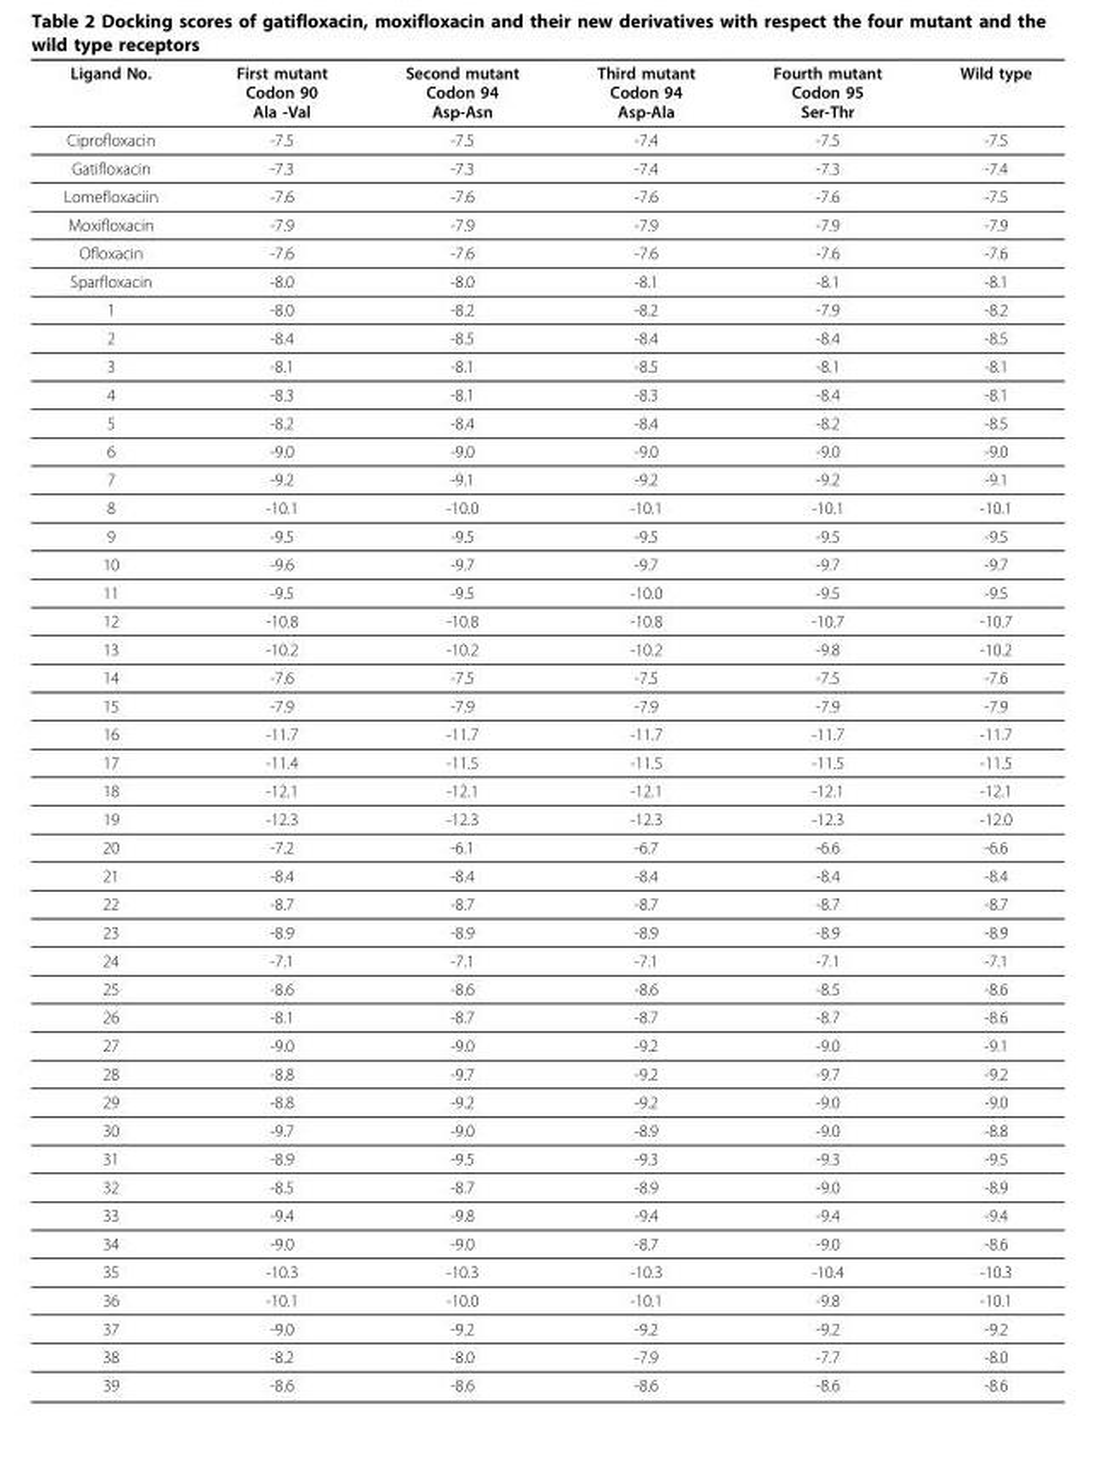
<table><thead><tr><td>Ligand No.</td><td>First mutant Codon 90 Ala -Val</td><td>Second mutant Codon 94 Asp-Asn</td><td>Third mutant Codon 94 Asp-Ala</td><td>Fourth mutant Codon 95 Ser-Thr</td><td>Wild type</td></tr></thead><tbody><tr><td>Ciprofloxacin</td><td>-7.5</td><td>-7.5</td><td>-7.4</td><td>-7.5</td><td>-7.5</td></tr><tr><td>Gatifloxacin</td><td>-7.3</td><td>-7.3</td><td>-7.4</td><td>-7.3</td><td>-7.4</td></tr><tr><td>Lomefloxaciin</td><td>-7.6</td><td>-7.6</td><td>-7.6</td><td>-7.6</td><td>-7.5</td></tr><tr><td>Moxifloxacin</td><td>-7.9</td><td>-7.9</td><td>-7.9</td><td>-7.9</td><td>-7.9</td></tr><tr><td>Ofloxacin</td><td>-7.6</td><td>-7.6</td><td>-7.6</td><td>-7.6</td><td>-7.6</td></tr><tr><td>Sparfloxacin</td><td>-8.0</td><td>-8.0</td><td>-8.1</td><td>-8.1</td><td>-8.1</td></tr><tr><td>1</td><td>-8.0</td><td>-8.2</td><td>-8.2</td><td>-7.9</td><td>-8.2</td></tr><tr><td>2</td><td>-8.4</td><td>-8.5</td><td>-8.4</td><td>-8.4</td><td>-8.5</td></tr><tr><td>3</td><td>-8.1</td><td>-8.1</td><td>-8.5</td><td>-8.1</td><td>-8.1</td></tr><tr><td>4</td><td>-8.3</td><td>-8.1</td><td>-8.3</td><td>-8.4</td><td>-8.1</td></tr><tr><td>5</td><td>-8.2</td><td>-8.4</td><td>-8.4</td><td>-8.2</td><td>-8.5</td></tr><tr><td>6</td><td>-9.0</td><td>-9.0</td><td>-9.0</td><td>-9.0</td><td>-9.0</td></tr><tr><td>7</td><td>-9.2</td><td>-9.1</td><td>-9.2</td><td>-9.2</td><td>-9.1</td></tr><tr><td>8</td><td>-10.1</td><td>-10.0</td><td>-10.1</td><td>-10.1</td><td>-10.1</td></tr><tr><td>9</td><td>-9.5</td><td>-9.5</td><td>-9.5</td><td>-9.5</td><td>-9.5</td></tr><tr><td>10</td><td>-9.6</td><td>-9.7</td><td>-9.7</td><td>-9.7</td><td>-9.7</td></tr><tr><td>11</td><td>-9.5</td><td>-9.5</td><td>-10.0</td><td>-9.5</td><td>-9.5</td></tr><tr><td>12</td><td>-10.8</td><td>-10.8</td><td>-10.8</td><td>-10.7</td><td>-10.7</td></tr><tr><td>13</td><td>-10.2</td><td>-10.2</td><td>-10.2</td><td>-9.8</td><td>-10.2</td></tr><tr><td>14</td><td>-7.6</td><td>-7.5</td><td>-7.5</td><td>-7.5</td><td>-7.6</td></tr><tr><td>15</td><td>-7.9</td><td>-7.9</td><td>-7.9</td><td>-7.9</td><td>-7.9</td></tr><tr><td>16</td><td>-11.7</td><td>-11.7</td><td>-11.7</td><td>-11.7</td><td>-11.7</td></tr><tr><td>17</td><td>-11.4</td><td>-11.5</td><td>-11.5</td><td>-11.5</td><td>-11.5</td></tr><tr><td>18</td><td>-12.1</td><td>-12.1</td><td>-12.1</td><td>-12.1</td><td>-12.1</td></tr><tr><td>19</td><td>-12.3</td><td>-12.3</td><td>-12.3</td><td>-12.3</td><td>-12.0</td></tr><tr><td>20</td><td>-7.2</td><td>-6.1</td><td>-6.7</td><td>-6.6</td><td>-6.6</td></tr><tr><td>21</td><td>-8.4</td><td>-8.4</td><td>-8.4</td><td>-8.4</td><td>-8.4</td></tr><tr><td>22</td><td>-8.7</td><td>-8.7</td><td>-8.7</td><td>-8.7</td><td>-8.7</td></tr><tr><td>23</td><td>-8.9</td><td>-8.9</td><td>-8.9</td><td>-8.9</td><td>-8.9</td></tr><tr><td>24</td><td>-7.1</td><td>-7.1</td><td>-7.1</td><td>-7.1</td><td>-7.1</td></tr><tr><td>25</td><td>-8.6</td><td>-8.6</td><td>-8.6</td><td>-8.5</td><td>-8.6</td></tr><tr><td>26</td><td>-8.1</td><td>-8.7</td><td>-8.7</td><td>-8.7</td><td>-8.6</td></tr><tr><td>27</td><td>-9.0</td><td>-9.0</td><td>-9.2</td><td>-9.0</td><td>-9.1</td></tr><tr><td>28</td><td>-8.8</td><td>-9.7</td><td>-9.2</td><td>-9.7</td><td>-9.2</td></tr><tr><td>29</td><td>-8.8</td><td>-9.2</td><td>-9.2</td><td>-9.0</td><td>-9.0</td></tr><tr><td>30</td><td>-9.7</td><td>-9.0</td><td>-8.9</td><td>-9.0</td><td>-8.8</td></tr><tr><td>31</td><td>-8.9</td><td>-9.5</td><td>-9.3</td><td>-9.3</td><td>-9.5</td></tr><tr><td>32</td><td>-8.5</td><td>-8.7</td><td>-8.9</td><td>-9.0</td><td>-8.9</td></tr><tr><td>33</td><td>-9.4</td><td>-9.8</td><td>-9.4</td><td>-9.4</td><td>-9.4</td></tr><tr><td>34</td><td>-9.0</td><td>-9.0</td><td>-8.7</td><td>-9.0</td><td>-8.6</td></tr><tr><td>35</td><td>-10.3</td><td>-10.3</td><td>-10.3</td><td>-10.4</td><td>-10.3</td></tr><tr><td>36</td><td>-10.1</td><td>-10.0</td><td>-10.1</td><td>-9.8</td><td>-10.1</td></tr><tr><td>37</td><td>-9.0</td><td>-9.2</td><td>-9.2</td><td>-9.2</td><td>-9.2</td></tr><tr><td>38</td><td>-8.2</td><td>-8.0</td><td>-7.9</td><td>-7.7</td><td>-8.0</td></tr><tr><td>39</td><td>-8.6</td><td>-8.6</td><td>-8.6</td><td>-8.6</td><td>-8.6</td></tr></tbody></table>